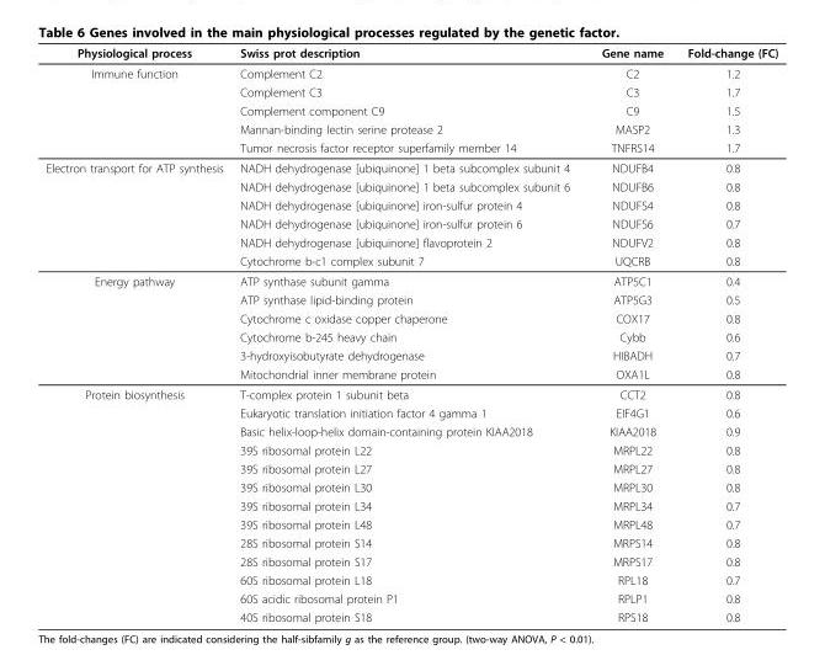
<table><thead><tr><td>Physiological process</td><td>Swiss prot description</td><td>Gene name</td><td>Fold-change (FC)</td></tr></thead><tbody><tr><td rowspan="5">Immune function</td><td>Complement C2</td><td>C2</td><td>1.2</td></tr><tr><td>Complement C3</td><td>C3</td><td>1.7</td></tr><tr><td>Complement component C9</td><td>C9</td><td>1.5</td></tr><tr><td>Mannan-binding lectin serine protease 2</td><td>MASP2</td><td>1.3</td></tr><tr><td>Tumor necrosis factor receptor superfamily member 14</td><td>TNFRS14</td><td>1.7</td></tr><tr><td rowspan="6">Electron transport for ATP synthesis</td><td>NADH dehydrogenase [ubiquinone] 1 beta subcomplex subunit 4</td><td>NDUFB4</td><td>0.8</td></tr><tr><td>NADH dehydrogenase [ubiquinone] 1 beta subcomplex subunit 6</td><td>NDUFB6</td><td>0.8</td></tr><tr><td>NADH dehydrogenase [ubiquinone] iron-sulfur protein 4</td><td>NDUFS4</td><td>0.8</td></tr><tr><td>NADH dehydrogenase [ubiquinone] iron-sulfur protein 6</td><td>NDUFS6</td><td>0.7</td></tr><tr><td>NADH dehydrogenase [ubiquinone] flavoprotein 2</td><td>NDUFV2</td><td>0.8</td></tr><tr><td>Cytochrome b-c1 complex subunit 7</td><td>UQCRB</td><td>0.8</td></tr><tr><td rowspan="6">Energy pathway</td><td>ATP synthase subunit gamma</td><td>ATP5C1</td><td>0.4</td></tr><tr><td>ATP synthase lipid-binding protein</td><td>ATP5G3</td><td>0.5</td></tr><tr><td>Cytochrome c oxidase copper chaperone</td><td>COX17</td><td>0.8</td></tr><tr><td>Cytochrome b-245 heavy chain</td><td>Cybb</td><td>0.6</td></tr><tr><td>3-hydroxyisobutyrate dehydrogenase</td><td>HIBADH</td><td>0.7</td></tr><tr><td>Mitochondrial inner membrane protein</td><td>OXA1L</td><td>0.8</td></tr><tr><td rowspan="13">Protein biosynthesis</td><td>T-complex protein 1 subunit beta</td><td>CCT2</td><td>0.8</td></tr><tr><td>Eukaryotic translation initiation factor 4 gamma 1</td><td>EIF4G1</td><td>0.6</td></tr><tr><td>Basic helix-loop-helix domain-containing protein KIAA2018</td><td>KIAA2018</td><td>0.9</td></tr><tr><td>39S ribosomal protein L22</td><td>MRPL22</td><td>0.8</td></tr><tr><td>39S ribosomal protein L27</td><td>MRPL27</td><td>0.8</td></tr><tr><td>39S ribosomal protein L30</td><td>MRPL30</td><td>0.8</td></tr><tr><td>39S ribosomal protein L34</td><td>MRPL34</td><td>0.7</td></tr><tr><td>39S ribosomal protein L48</td><td>MRPL48</td><td>0.7</td></tr><tr><td>28S ribosomal protein S14</td><td>MRPS14</td><td>0.8</td></tr><tr><td>28S ribosomal protein S17</td><td>MRPS17</td><td>0.8</td></tr><tr><td>60S ribosomal protein L18</td><td>RPL18</td><td>0.7</td></tr><tr><td>60S acidic ribosomal protein P1</td><td>RPLP1</td><td>0.8</td></tr><tr><td>40S ribosomal protein S18</td><td>RPS18</td><td>0.8</td></tr></tbody></table>